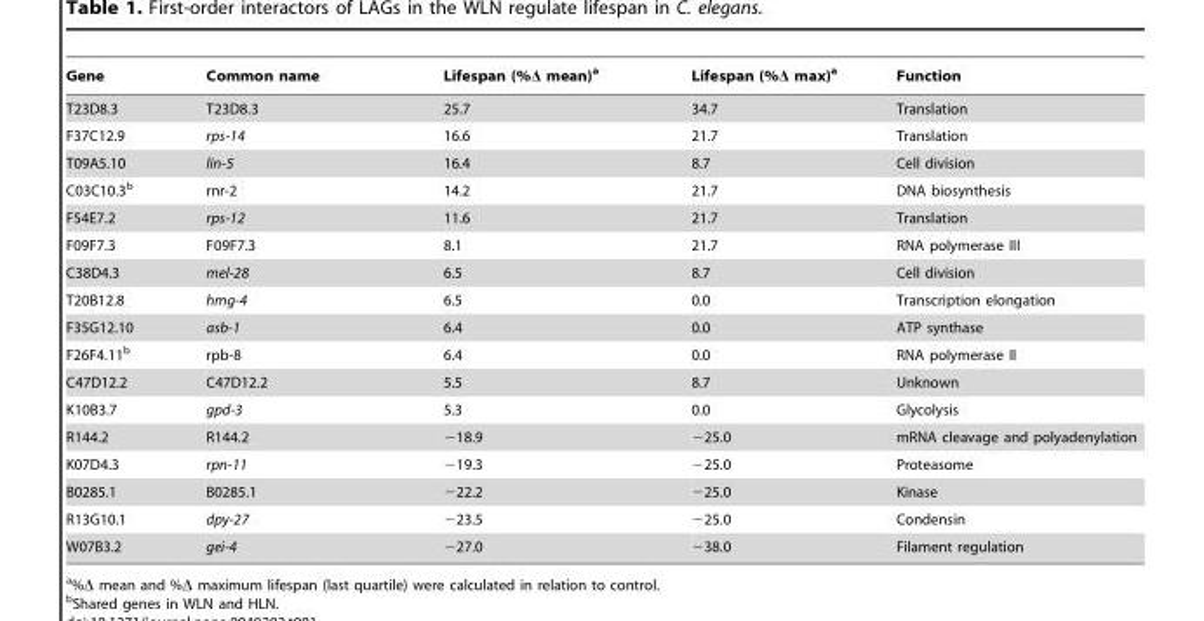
<table><thead><tr><td>Gene</td><td>Common name</td><td>Lifespan (%Δ mean)<sup>a</sup></td><td>Lifespan (%Δ max)<sup>a</sup></td><td>Function</td></tr></thead><tbody><tr><td>T23D8.3</td><td>T23D8.3</td><td>25.7</td><td>34.7</td><td>Translation</td></tr><tr><td>F37C12.9</td><td>rps-14</td><td>16.6</td><td>21.7</td><td>Translation</td></tr><tr><td>T09A5.10</td><td>lin-5</td><td>16.4</td><td>8.7</td><td>Cell division</td></tr><tr><td>C03C10.3<sup>b</sup></td><td>rnr-2</td><td>14.2</td><td>21.7</td><td>DNA biosynthesis</td></tr><tr><td>F54E7.2</td><td>rps-12</td><td>11.6</td><td>21.7</td><td>Translation</td></tr><tr><td>F09F7.3</td><td>F09F7.3</td><td>8.1</td><td>21.7</td><td>RNA polymerase III</td></tr><tr><td>C38D4.3</td><td>mel-28</td><td>6.5</td><td>8.7</td><td>Cell division</td></tr><tr><td>T20B12.8</td><td>hmg-4</td><td>6.5</td><td>0.0</td><td>Transcription elongation</td></tr><tr><td>F35G12.10</td><td>asb-1</td><td>6.4</td><td>0.0</td><td>ATP synthase</td></tr><tr><td>F26F4.11<sup>b</sup></td><td>rpb-8</td><td>6.4</td><td>0.0</td><td>RNA polymerase II</td></tr><tr><td>C47D12.2</td><td>C47D12.2</td><td>5.5</td><td>8.7</td><td>Unknown</td></tr><tr><td>K10B3.7</td><td>gpd-3</td><td>5.3</td><td>0.0</td><td>Glycolysis</td></tr><tr><td>R144.2</td><td>R144.2</td><td>−18.9</td><td>−25.0</td><td>mRNA cleavage and polyadenylation</td></tr><tr><td>K07D4.3</td><td>rpn-11</td><td>−19.3</td><td>−25.0</td><td>Proteasome</td></tr><tr><td>B0285.1</td><td>B0285.1</td><td>−22.2</td><td>−25.0</td><td>Kinase</td></tr><tr><td>R13G10.1</td><td>dpy-27</td><td>−23.5</td><td>−25.0</td><td>Condensin</td></tr><tr><td>W07B3.2</td><td>gei-4</td><td>−27.0</td><td>−38.0</td><td>Filament regulation</td></tr></tbody></table>